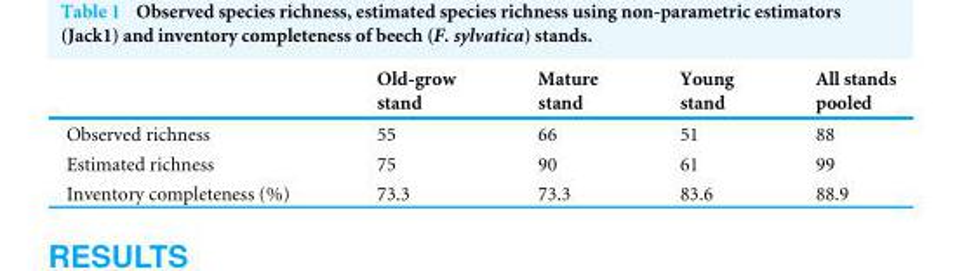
<table><thead><tr><td></td><td>Old-grow stand</td><td>Mature stand</td><td>Young stand</td><td>All stands pooled</td></tr></thead><tbody><tr><td>Observed richness</td><td>55</td><td>66</td><td>51</td><td>88</td></tr><tr><td>Estimated richness</td><td>75</td><td>90</td><td>61</td><td>99</td></tr><tr><td>Inventory completeness (%)</td><td>73.3</td><td>73.3</td><td>83.6</td><td>88.9</td></tr></tbody></table>